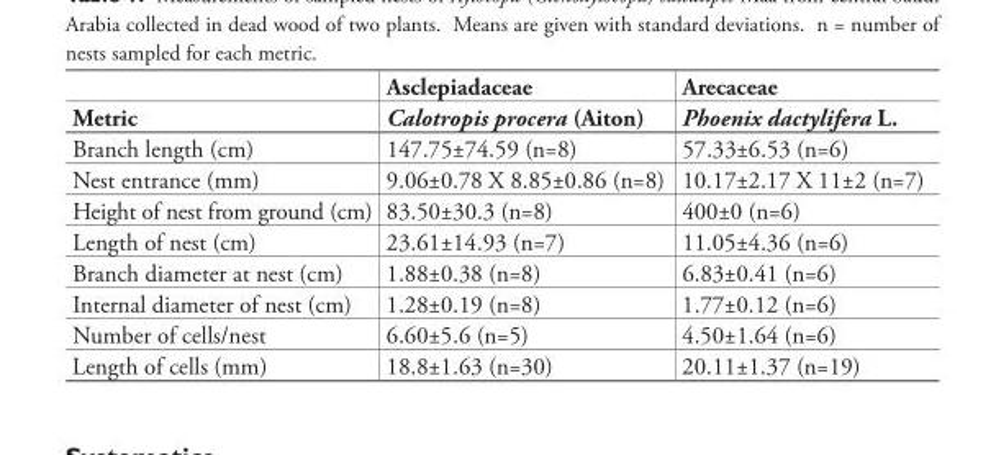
<table><thead><tr><td rowspan="2">Metric</td><td rowspan="2">Asclepiadaceae Calotropis procera (Aiton)</td><td rowspan="2">Arecaceae Phoenix dactylifera L.</td></tr><tr></tr></thead><tbody><tr><td>Branch length (cm)</td><td>147.75±74.59 (n=8)</td><td>57.33±6.53 (n=6)</td></tr><tr><td>Nest entrance (mm)</td><td>9.06±0.78 X 8.85±0.86 (n=8)</td><td>10.17±2.17 X 11±2 (n=7)</td></tr><tr><td>Height of nest from ground (cm)</td><td>83.50±30.3 (n=8)</td><td>400±0 (n=6)</td></tr><tr><td>Length of nest (cm)</td><td>23.61±14.93 (n=7)</td><td>11.05±4.36 (n=6)</td></tr><tr><td>Branch diameter at nest (cm)</td><td>1.88±0.38 (n=8)</td><td>6.83±0.41 (n=6)</td></tr><tr><td>Internal diameter of nest (cm)</td><td>1.28±0.19 (n=8)</td><td>1.77±0.12 (n=6)</td></tr><tr><td>Number of cells/nest</td><td>6.60±5.6 (n=5)</td><td>4.50±1.64 (n=6)</td></tr><tr><td>Length of cells (mm)</td><td>18.8±1.63 (n=30)</td><td>20.11±1.37 (n=19)</td></tr></tbody></table>